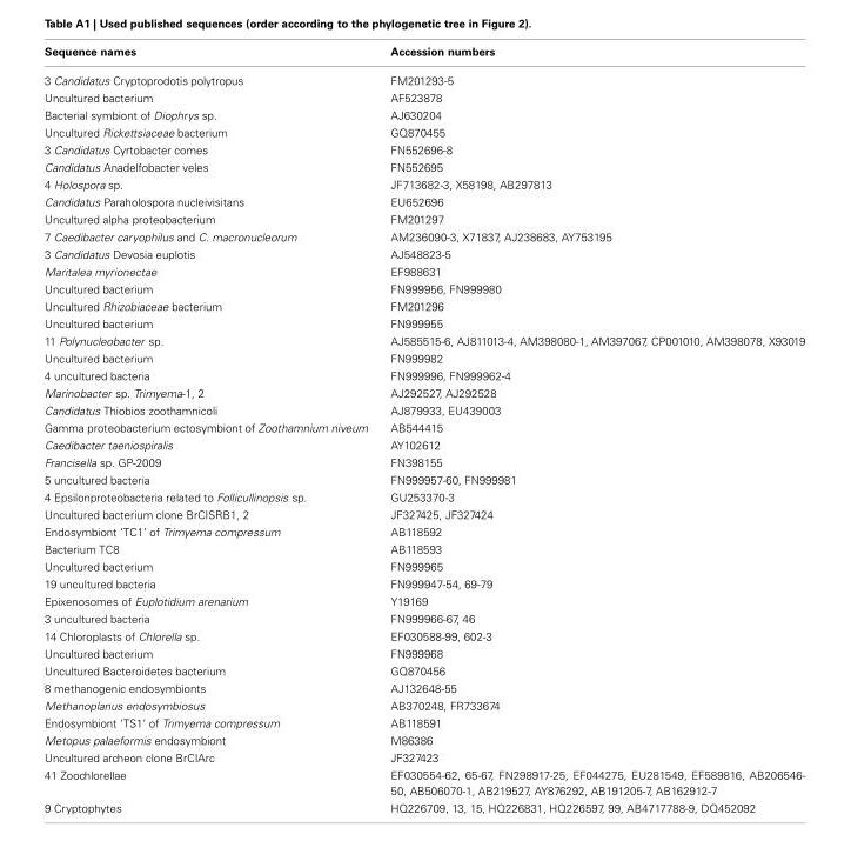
<table><thead><tr><td>Sequence names</td><td>Accession numbers</td></tr></thead><tbody><tr><td>3 Candidatus Cryptoprodotis polytropus</td><td>FM201293-5</td></tr><tr><td>Uncultured bacterium</td><td>AF523878</td></tr><tr><td>Bacterial symbiont of Diophrys sp.</td><td>AJ630204</td></tr><tr><td>Uncultured Rickettsiaceae bacterium</td><td>GQ870455</td></tr><tr><td>3 Candidatus Cyrtobacter comes</td><td>FN552696-8</td></tr><tr><td>Candidatus Anadelfobacter veles</td><td>FN552695</td></tr><tr><td>4 Holospora sp.</td><td>JF713682-3, X58198, AB297813</td></tr><tr><td>Candidatus Paraholospora nucleivisitans</td><td>EU652696</td></tr><tr><td>Uncultured alpha proteobacterium</td><td>FM201297</td></tr><tr><td>7 Caedibacter caryophilus and C. macronucleorum</td><td>AM236090-3, X71837, AJ238683, AY753195</td></tr><tr><td>3 Candidatus Devosia euplotis</td><td>AJ548823-5</td></tr><tr><td>Maritalea myrionectae</td><td>EF988631</td></tr><tr><td>Uncultured bacterium</td><td>FN999956, FN999980</td></tr><tr><td>Uncultured Rhizobiaceae bacterium</td><td>FM201296</td></tr><tr><td>Uncultured bacterium</td><td>FN999955</td></tr><tr><td>11 Polynucleobacter sp.</td><td>AJ585515-6, AJ811013-4, AM398080-1, AM397067, CP001010, AM398078, X93019</td></tr><tr><td>Uncultured bacterium</td><td>FN999982</td></tr><tr><td>4 uncultured bacteria</td><td>FN999996, FN999962-4</td></tr><tr><td>Marinobacter sp. Trimyema-1, 2</td><td>AJ292527, AJ292528</td></tr><tr><td>Candidatus Thiobios zoothamnicoli</td><td>AJ879933, EU439003</td></tr><tr><td>Gamma proteobacterium ectosymbiont of Zoothamnium niveum</td><td>AB544415</td></tr><tr><td>Caedibacter taeniospiralis</td><td>AY102612</td></tr><tr><td>Francisella sp. GP-2009</td><td>FN398155</td></tr><tr><td>5 uncultured bacteria</td><td>FN999957-60, FN999981</td></tr><tr><td>4 Epsilonproteobacteria related to Follicullinopsis sp.</td><td>GU253370-3</td></tr><tr><td>Uncultured bacterium clone BrCISRB1, 2</td><td>JF327425, JF327424</td></tr><tr><td>Endosymbiont ‘TC1’ of Trimyema compressum</td><td>AB118592</td></tr><tr><td>Bacterium TC8</td><td>AB118593</td></tr><tr><td>Uncultured bacterium</td><td>FN999965</td></tr><tr><td>19 uncultured bacteria</td><td>FN999947-54, 69-79</td></tr><tr><td>Epixenosomes of Euplotidium arenarium</td><td>Y19169</td></tr><tr><td>3 uncultured bacteria</td><td>FN999966-67, 46</td></tr><tr><td>14 Chloroplasts of Chlorella sp.</td><td>EF030588-99, 602-3</td></tr><tr><td>Uncultured bacterium</td><td>FN999968</td></tr><tr><td>Uncultured Bacteroidetes bacterium</td><td>GQ870456</td></tr><tr><td>8 methanogenic endosymbionts</td><td>AJ132648-55</td></tr><tr><td>Methanoplanus endosymbiosus</td><td>AB370248, FR733674</td></tr><tr><td>Endosymbiont ‘TS1’ of Trimyema compressum</td><td>AB118591</td></tr><tr><td>Metopus palaeformis endosymbiont</td><td>M86386</td></tr><tr><td>Uncultured archeon clone BrCIArc</td><td>JF327423</td></tr><tr><td>41 Zoochlorellae</td><td>EF030554-62, 65-67, FN298917-25, EF044275, EU281549, EF589816, AB206546- 50, AB506070-1, AB219527, AY876292, AB191205-7, AB162912-7</td></tr><tr><td>9 Cryptophytes</td><td>HQ226709, 13, 15, HQ226831, HQ226597, 99, AB4717788-9, DQ452092</td></tr></tbody></table>